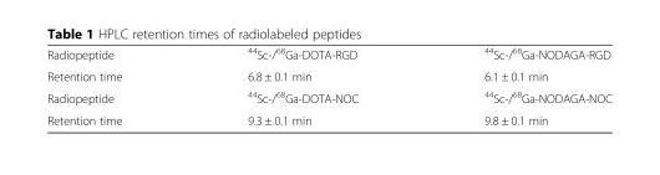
<table><tbody><tr><td>Radiopeptide</td><td><sup>44</sup>Sc-/<sup>68</sup>Ga-DOTA-RGD</td><td><sup>44</sup>Sc-/<sup>68</sup>Ga-NODAGA-RGD</td></tr><tr><td>Retention time</td><td>6.8 ± 0.1 min</td><td>6.1 ± 0.1 min</td></tr><tr><td>Radiopeptide</td><td><sup>44</sup>Sc-/<sup>68</sup>Ga-DOTA-NOC</td><td><sup>44</sup>Sc-/<sup>68</sup>Ga-NODAGA-NOC</td></tr><tr><td>Retention time</td><td>9.3 ± 0.1 min</td><td>9.8 ± 0.1 min</td></tr></tbody></table>